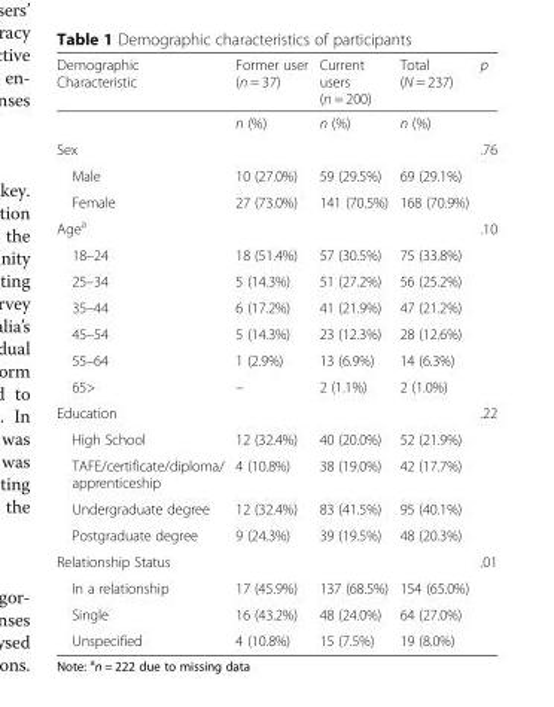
<table><thead><tr><td>Demographic Characteristic</td><td>Former user (n = 37)</td><td>Current users (n = 200)</td><td>Total (N = 237)</td><td>p</td></tr></thead><tbody><tr><td></td><td>n (%)</td><td>n (%)</td><td>n (%)</td><td></td></tr><tr><td>Sex</td><td></td><td></td><td></td><td>.76</td></tr><tr><td>Male</td><td>10 (27.0%)</td><td>59 (29.5%)</td><td>69 (29.1%)</td><td></td></tr><tr><td>Female</td><td>27 (73.0%)</td><td>141 (70.5%)</td><td>168 (70.9%)</td><td></td></tr><tr><td>Age<sup>a</sup></td><td></td><td></td><td></td><td>.10</td></tr><tr><td>18–24</td><td>18 (51.4%)</td><td>57 (30.5%)</td><td>75 (33.8%)</td><td></td></tr><tr><td>25–34</td><td>5 (14.3%)</td><td>51 (27.2%)</td><td>56 (25.2%)</td><td></td></tr><tr><td>35–44</td><td>6 (17.2%)</td><td>41 (21.9%)</td><td>47 (21.2%)</td><td></td></tr><tr><td>45–54</td><td>5 (14.3%)</td><td>23 (12.3%)</td><td>28 (12.6%)</td><td></td></tr><tr><td>55–64</td><td>1 (2.9%)</td><td>13 (6.9%)</td><td>14 (6.3%)</td><td></td></tr><tr><td>65&gt;</td><td>–</td><td>2 (1.1%)</td><td>2 (1.0%)</td><td></td></tr><tr><td>Education</td><td></td><td></td><td></td><td>.22</td></tr><tr><td>High School</td><td>12 (32.4%)</td><td>40 (20.0%)</td><td>52 (21.9%)</td><td></td></tr><tr><td>TAFE/certificate/diploma/ apprenticeship</td><td>4 (10.8%)</td><td>38 (19.0%)</td><td>42 (17.7%)</td><td></td></tr><tr><td>Undergraduate degree</td><td>12 (32.4%)</td><td>83 (41.5%)</td><td>95 (40.1%)</td><td></td></tr><tr><td>Postgraduate degree</td><td>9 (24.3%)</td><td>39 (19.5%)</td><td>48 (20.3%)</td><td></td></tr><tr><td>Relationship Status</td><td></td><td></td><td></td><td>.01</td></tr><tr><td>In a relationship</td><td>17 (45.9%)</td><td>137 (68.5%)</td><td>154 (65.0%)</td><td></td></tr><tr><td>Single</td><td>16 (43.2%)</td><td>48 (24.0%)</td><td>64 (27.0%)</td><td></td></tr><tr><td>Unspecified</td><td>4 (10.8%)</td><td>15 (7.5%)</td><td>19 (8.0%)</td><td></td></tr></tbody></table>